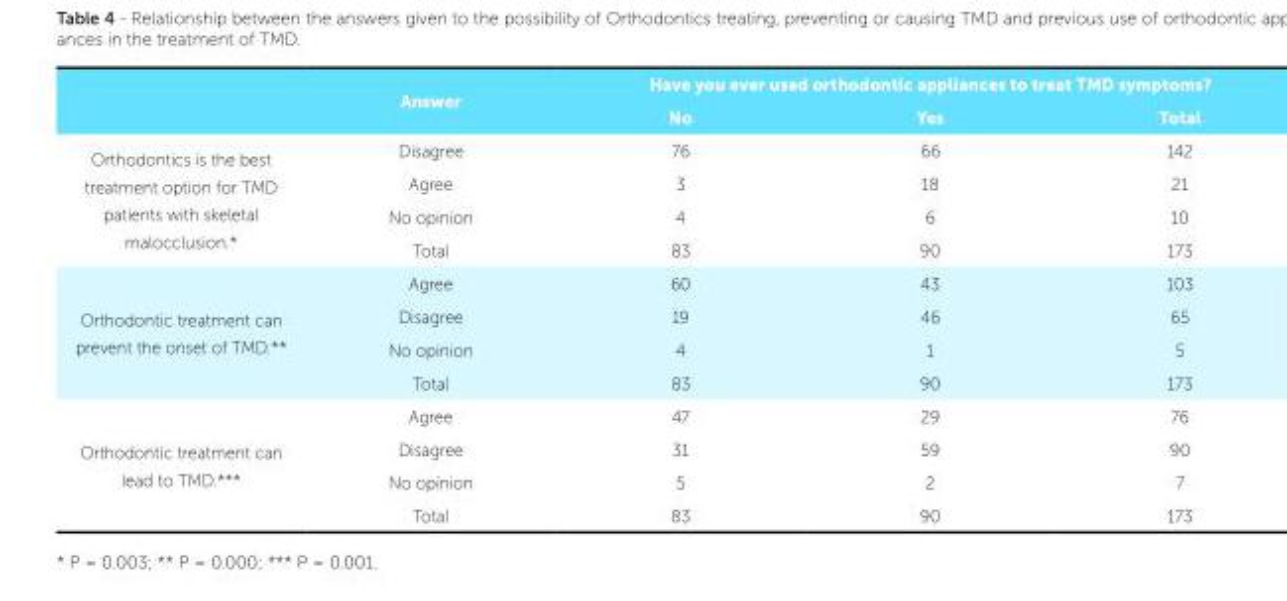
<table><thead><tr><td rowspan="2"></td><td rowspan="2">Answer</td><td colspan="3">Have you ever used orthodontic appliances to treat TMD symptoms?</td></tr><tr><td>No</td><td>Yes</td><td>Total</td></tr></thead><tbody><tr><td rowspan="4">Orthodontics is the best treatment option for TMD patients with skeletal malocclusion.*</td><td>Disagree</td><td>76</td><td>66</td><td>142</td></tr><tr><td>Agree</td><td>3</td><td>18</td><td>21</td></tr><tr><td>No opinion</td><td>4</td><td>6</td><td>10</td></tr><tr><td>Total</td><td>83</td><td>90</td><td>173</td></tr><tr><td rowspan="4">Orthodontic treatment can prevent the onset of TMD.**</td><td>Agree</td><td>60</td><td>43</td><td>103</td></tr><tr><td>Disagree</td><td>19</td><td>46</td><td>65</td></tr><tr><td>No opinion</td><td>4</td><td>1</td><td>5</td></tr><tr><td>Total</td><td>83</td><td>90</td><td>173</td></tr><tr><td rowspan="4">Orthodontic treatment can lead to TMD.***</td><td>Agree</td><td>47</td><td>29</td><td>76</td></tr><tr><td>Disagree</td><td>31</td><td>59</td><td>90</td></tr><tr><td>No opinion</td><td>5</td><td>2</td><td>7</td></tr><tr><td>Total</td><td>83</td><td>90</td><td>173</td></tr></tbody></table>